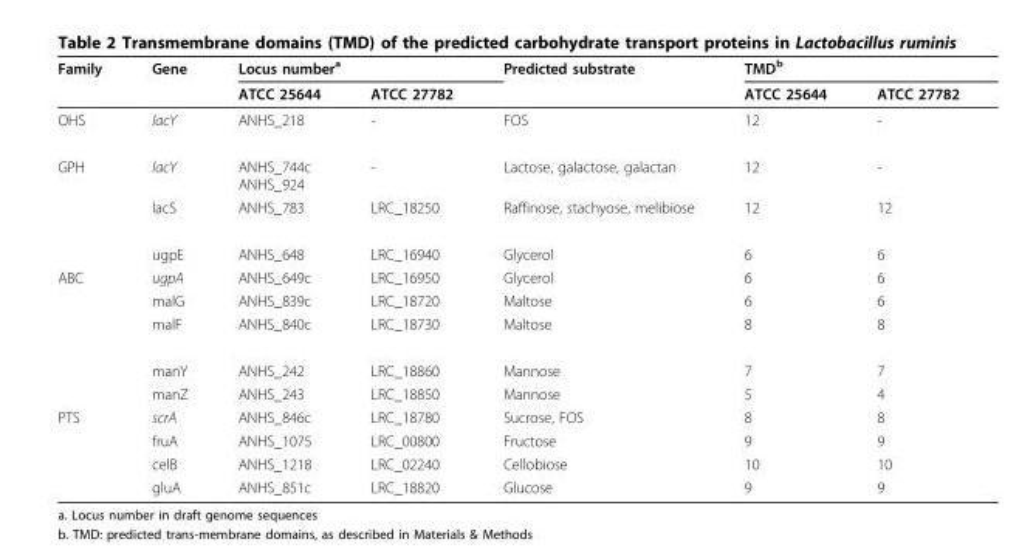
<table><thead><tr><td rowspan="2">Family</td><td rowspan="2">Gene</td><td colspan="2">Locus number<sup>a</sup></td><td rowspan="2">Predicted substrate</td><td colspan="2">TMD<sup>b</sup></td></tr><tr><td>ATCC 25644</td><td>ATCC 27782</td><td>ATCC 25644</td><td>ATCC 27782</td></tr></thead><tbody><tr><td>OHS</td><td>lacY</td><td>ANHS_218</td><td>-</td><td>FOS</td><td>12</td><td>-</td></tr><tr><td rowspan="3">GPH</td><td>lacY</td><td>ANHS_744c ANHS_924</td><td>-</td><td>Lactose, galactose, galactan</td><td>12</td><td>-</td></tr><tr><td>lacS</td><td>ANHS_783</td><td>LRC_18250</td><td>Raffinose, stachyose, melibiose</td><td>12</td><td>12</td></tr><tr><td>ugpE</td><td>ANHS_648</td><td>LRC_16940</td><td>Glycerol</td><td>6</td><td>6</td></tr><tr><td rowspan="5">ABC</td><td>ugpA</td><td>ANHS_649c</td><td>LRC_16950</td><td>Glycerol</td><td>6</td><td>6</td></tr><tr><td>malG</td><td>ANHS_839c</td><td>LRC_18720</td><td>Maltose</td><td>6</td><td>6</td></tr><tr><td>malF</td><td>ANHS_840c</td><td>LRC_18730</td><td>Maltose</td><td>8</td><td>8</td></tr><tr><td>manY</td><td>ANHS_242</td><td>LRC_18860</td><td>Mannose</td><td>7</td><td>7</td></tr><tr><td>manZ</td><td>ANHS_243</td><td>LRC_18850</td><td>Mannose</td><td>5</td><td>4</td></tr><tr><td rowspan="4">PTS</td><td>scrA</td><td>ANHS_846c</td><td>LRC_18780</td><td>Sucrose, FOS</td><td>8</td><td>8</td></tr><tr><td>fruA</td><td>ANHS_1075</td><td>LRC_00800</td><td>Fructose</td><td>9</td><td>9</td></tr><tr><td>celB</td><td>ANHS_1218</td><td>LRC_02240</td><td>Cellobiose</td><td>10</td><td>10</td></tr><tr><td>gluA</td><td>ANHS_851c</td><td>LRC_18820</td><td>Glucose</td><td>9</td><td>9</td></tr></tbody></table>